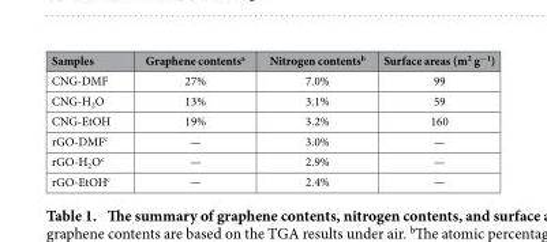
<table><thead><tr><td>Samples</td><td>Graphene contents<sup>a</sup></td><td>Nitrogen contents<sup>b</sup></td><td>Surface areas (m<sup>2</sup> g<sup>−1</sup>)</td></tr></thead><tbody><tr><td>CNG-DMF</td><td>27%</td><td>7.0%</td><td>99</td></tr><tr><td>CNG-H<sub>2</sub>O</td><td>13%</td><td>3.1%</td><td>59</td></tr><tr><td>CNG-EtOH</td><td>19%</td><td>3.2%</td><td>160</td></tr><tr><td>rGO-DMF<sup>c</sup></td><td>—</td><td>3.0%</td><td>—</td></tr><tr><td>rGO-H<sub>2</sub>O<sup>c</sup></td><td>—</td><td>2.9%</td><td>—</td></tr><tr><td>rGO-EtOH<sup>c</sup></td><td>—</td><td>2.4%</td><td>—</td></tr></tbody></table>